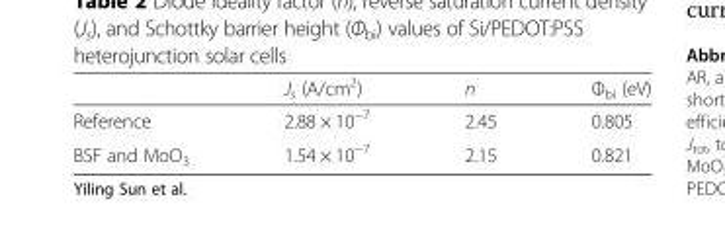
<table><thead><tr><td></td><td>J<sub>s</sub> (A/cm<sup>2</sup>)</td><td>n</td><td>Φ<sub>bi</sub> (eV)</td></tr></thead><tbody><tr><td>Reference</td><td>2.88 × 10<sup>−7</sup></td><td>2.45</td><td>0.805</td></tr><tr><td>BSF and MoO<sub>3</sub></td><td>1.54 × 10<sup>−7</sup></td><td>2.15</td><td>0.821</td></tr></tbody></table>